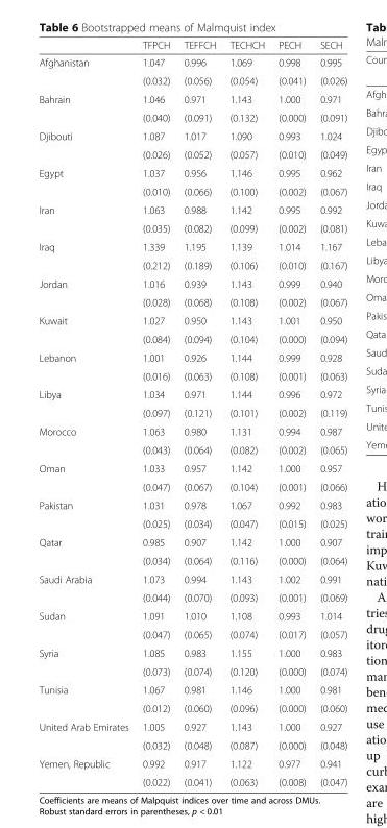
<table><thead><tr><td></td><td>TFPCH</td><td>TEFFCH</td><td>TECHCH</td><td>PECH</td><td>SECH</td></tr></thead><tbody><tr><td rowspan="2">Afghanistan</td><td>1.047</td><td>0.996</td><td>1.069</td><td>0.998</td><td>0.995</td></tr><tr><td>(0.032)</td><td>(0.056)</td><td>(0.054)</td><td>(0.041)</td><td>(0.026)</td></tr><tr><td rowspan="2">Bahrain</td><td>1.046</td><td>0.971</td><td>1.143</td><td>1.000</td><td>0.971</td></tr><tr><td>(0.040)</td><td>(0.091)</td><td>(0.132)</td><td>(0.000)</td><td>(0.091)</td></tr><tr><td rowspan="2">Djibouti</td><td>1.087</td><td>1.017</td><td>1.090</td><td>0.993</td><td>1.024</td></tr><tr><td>(0.026)</td><td>(0.052)</td><td>(0.057)</td><td>(0.010)</td><td>(0.049)</td></tr><tr><td rowspan="2">Egypt</td><td>1.037</td><td>0.956</td><td>1.146</td><td>0.995</td><td>0.962</td></tr><tr><td>(0.010)</td><td>(0.066)</td><td>(0.100)</td><td>(0.002)</td><td>(0.067)</td></tr><tr><td rowspan="2">Iran</td><td>1.063</td><td>0.988</td><td>1.142</td><td>0.995</td><td>0.992</td></tr><tr><td>(0.035)</td><td>(0.082)</td><td>(0.099)</td><td>(0.002)</td><td>(0.081)</td></tr><tr><td rowspan="2">Iraq</td><td>1.339</td><td>1.195</td><td>1.139</td><td>1.014</td><td>1.167</td></tr><tr><td>(0.212)</td><td>(0.189)</td><td>(0.106)</td><td>(0.010)</td><td>(0.167)</td></tr><tr><td rowspan="2">Jordan</td><td>1.016</td><td>0.939</td><td>1.143</td><td>0.999</td><td>0.940</td></tr><tr><td>(0.028)</td><td>(0.068)</td><td>(0.108)</td><td>(0.002)</td><td>(0.067)</td></tr><tr><td rowspan="2">Kuwait</td><td>1.027</td><td>0.950</td><td>1.143</td><td>1.001</td><td>0.950</td></tr><tr><td>(0.084)</td><td>(0.094)</td><td>(0.104)</td><td>(0.000)</td><td>(0.094)</td></tr><tr><td rowspan="2">Lebanon</td><td>1.001</td><td>0.926</td><td>1.144</td><td>0.999</td><td>0.928</td></tr><tr><td>(0.016)</td><td>(0.063)</td><td>(0.108)</td><td>(0.001)</td><td>(0.063)</td></tr><tr><td rowspan="2">Libya</td><td>1.034</td><td>0.971</td><td>1.144</td><td>0.996</td><td>0.972</td></tr><tr><td>(0.097)</td><td>(0.121)</td><td>(0.101)</td><td>(0.002)</td><td>(0.119)</td></tr><tr><td rowspan="2">Morocco</td><td>1.063</td><td>0.980</td><td>1.131</td><td>0.994</td><td>0.987</td></tr><tr><td>(0.043)</td><td>(0.064)</td><td>(0.082)</td><td>(0.002)</td><td>(0.065)</td></tr><tr><td rowspan="2">Oman</td><td>1.033</td><td>0.957</td><td>1.142</td><td>1.000</td><td>0.957</td></tr><tr><td>(0.047)</td><td>(0.067)</td><td>(0.104)</td><td>(0.001)</td><td>(0.066)</td></tr><tr><td rowspan="2">Pakistan</td><td>1.031</td><td>0.978</td><td>1.067</td><td>0.992</td><td>0.983</td></tr><tr><td>(0.025)</td><td>(0.034)</td><td>(0.047)</td><td>(0.015)</td><td>(0.025)</td></tr><tr><td rowspan="2">Qatar</td><td>0.985</td><td>0.907</td><td>1.142</td><td>1.000</td><td>0.907</td></tr><tr><td>(0.034)</td><td>(0.064)</td><td>(0.116)</td><td>(0.000)</td><td>(0.064)</td></tr><tr><td rowspan="2">Saudi Arabia</td><td>1.073</td><td>0.994</td><td>1.143</td><td>1.002</td><td>0.991</td></tr><tr><td>(0.044)</td><td>(0.070)</td><td>(0.093)</td><td>(0.001)</td><td>(0.069)</td></tr><tr><td rowspan="2">Sudan</td><td>1.091</td><td>1.010</td><td>1.108</td><td>0.993</td><td>1.014</td></tr><tr><td>(0.047)</td><td>(0.065)</td><td>(0.074)</td><td>(0.017)</td><td>(0.057)</td></tr><tr><td rowspan="2">Syria</td><td>1.085</td><td>0.983</td><td>1.155</td><td>1.000</td><td>0.983</td></tr><tr><td>(0.073)</td><td>(0.074)</td><td>(0.120)</td><td>(0.000)</td><td>(0.074)</td></tr><tr><td rowspan="2">Tunisia</td><td>1.067</td><td>0.981</td><td>1.146</td><td>1.000</td><td>0.981</td></tr><tr><td>(0.012)</td><td>(0.060)</td><td>(0.096)</td><td>(0.000)</td><td>(0.060)</td></tr><tr><td rowspan="2">United Arab Emirates</td><td>1.005</td><td>0.927</td><td>1.143</td><td>1.000</td><td>0.927</td></tr><tr><td>(0.032)</td><td>(0.048)</td><td>(0.087)</td><td>(0.000)</td><td>(0.048)</td></tr><tr><td rowspan="2">Yemen, Republic</td><td>0.992</td><td>0.917</td><td>1.122</td><td>0.977</td><td>0.941</td></tr><tr><td>(0.022)</td><td>(0.041)</td><td>(0.063)</td><td>(0.008)</td><td>(0.047)</td></tr></tbody></table>